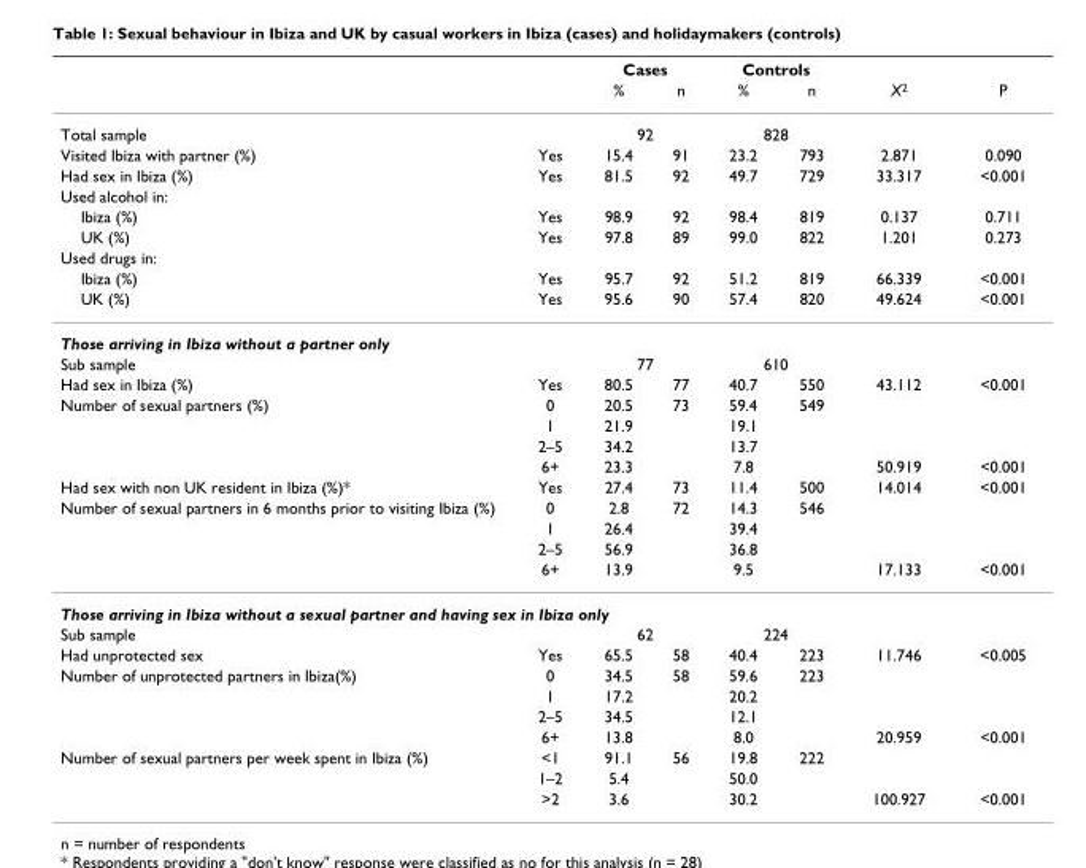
<table><thead><tr><td rowspan="2"></td><td rowspan="2"></td><td colspan="2">Cases</td><td colspan="2">Controls</td><td rowspan="2">X2</td><td rowspan="2">P</td></tr><tr><td>%</td><td>n</td><td>%</td><td>n</td></tr></thead><tbody><tr><td>Total sample</td><td></td><td colspan="2">92</td><td colspan="2">828</td><td></td><td></td></tr><tr><td>Visited Ibiza with partner (%)</td><td>Yes</td><td>15.4</td><td>91</td><td>23.2</td><td>793</td><td>2.871</td><td>0.090</td></tr><tr><td>Had sex in Ibiza (%)</td><td>Yes</td><td>81.5</td><td>92</td><td>49.7</td><td>729</td><td>33.317</td><td>&lt;0.001</td></tr><tr><td colspan="8">Used alcohol in:</td></tr><tr><td>Ibiza (%)</td><td>Yes</td><td>98.9</td><td>92</td><td>98.4</td><td>819</td><td>0.137</td><td>0.711</td></tr><tr><td>UK (%)</td><td>Yes</td><td>97.8</td><td>89</td><td>99.0</td><td>822</td><td>1.201</td><td>0.273</td></tr><tr><td colspan="8">Used drugs in:</td></tr><tr><td>Ibiza (%)</td><td>Yes</td><td>95.7</td><td>92</td><td>51.2</td><td>819</td><td>66.339</td><td>&lt;0.001</td></tr><tr><td>UK (%)</td><td>Yes</td><td>95.6</td><td>90</td><td>57.4</td><td>820</td><td>49.624</td><td>&lt;0.001</td></tr><tr><td colspan="8">Those arriving in Ibiza without a partner only</td></tr><tr><td>Sub sample</td><td></td><td colspan="2">77</td><td colspan="2">610</td><td></td><td></td></tr><tr><td>Had sex in Ibiza (%)</td><td>Yes</td><td>80.5</td><td>77</td><td>40.7</td><td>550</td><td>43.112</td><td>&lt;0.001</td></tr><tr><td rowspan="4">Number of sexual partners (%)</td><td>0</td><td>20.5</td><td>73</td><td>59.4</td><td>549</td><td></td><td></td></tr><tr><td>1</td><td>21.9</td><td></td><td>19.1</td><td></td><td></td><td></td></tr><tr><td>2–5</td><td>34.2</td><td></td><td>13.7</td><td></td><td></td><td></td></tr><tr><td>6+</td><td>23.3</td><td></td><td>7.8</td><td></td><td>50.919</td><td>&lt;0.001</td></tr><tr><td>Had sex with non UK resident in Ibiza (%)*</td><td>Yes</td><td>27.4</td><td>73</td><td>11.4</td><td>500</td><td>14.014</td><td>&lt;0.001</td></tr><tr><td rowspan="4">Number of sexual partners in 6 months prior to visiting Ibiza (%)</td><td>0</td><td>2.8</td><td>72</td><td>14.3</td><td>546</td><td></td><td></td></tr><tr><td>1</td><td>26.4</td><td></td><td>39.4</td><td></td><td></td><td></td></tr><tr><td>2–5</td><td>56.9</td><td></td><td>36.8</td><td></td><td></td><td></td></tr><tr><td>6+</td><td>13.9</td><td></td><td>9.5</td><td></td><td>17.133</td><td>&lt;0.001</td></tr><tr><td colspan="8">Those arriving in Ibiza without a sexual partner and having sex in Ibiza only</td></tr><tr><td>Sub sample</td><td></td><td colspan="2">62</td><td colspan="2">224</td><td></td><td></td></tr><tr><td>Had unprotected sex</td><td>Yes</td><td>65.5</td><td>58</td><td>40.4</td><td>223</td><td>11.746</td><td>&lt;0.005</td></tr><tr><td rowspan="4">Number of unprotected partners in Ibiza(%)</td><td>0</td><td>34.5</td><td>58</td><td>59.6</td><td>223</td><td></td><td></td></tr><tr><td>1</td><td>17.2</td><td></td><td>20.2</td><td></td><td></td><td></td></tr><tr><td>2–5</td><td>34.5</td><td></td><td>12.1</td><td></td><td></td><td></td></tr><tr><td>6+</td><td>13.8</td><td></td><td>8.0</td><td></td><td>20.959</td><td>&lt;0.001</td></tr><tr><td rowspan="3">Number of sexual partners per week spent in Ibiza (%)</td><td>&lt;1</td><td>91.1</td><td>56</td><td>19.8</td><td>222</td><td></td><td></td></tr><tr><td>1–2</td><td>5.4</td><td></td><td>50.0</td><td></td><td></td><td></td></tr><tr><td>&gt;2</td><td>3.6</td><td></td><td>30.2</td><td></td><td>100.927</td><td>&lt;0.001</td></tr></tbody></table>